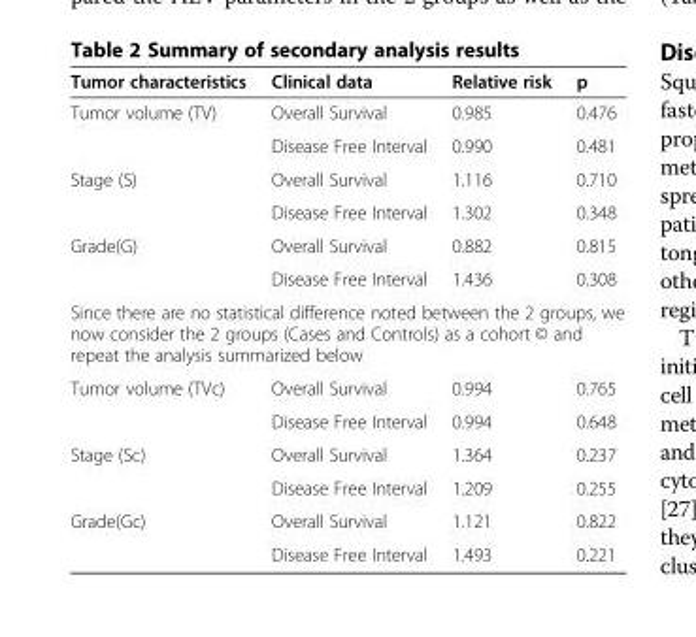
<table><thead><tr><td>Tumor characteristics</td><td>Clinical data</td><td>Relative risk</td><td>p</td></tr></thead><tbody><tr><td rowspan="2">Tumor volume (TV)</td><td>Overall Survival</td><td>0.985</td><td>0.476</td></tr><tr><td>Disease Free Interval</td><td>0.990</td><td>0.481</td></tr><tr><td rowspan="2">Stage (S)</td><td>Overall Survival</td><td>1.116</td><td>0.710</td></tr><tr><td>Disease Free Interval</td><td>1.302</td><td>0.348</td></tr><tr><td rowspan="2">Grade(G)</td><td>Overall Survival</td><td>0.882</td><td>0.815</td></tr><tr><td>Disease Free Interval</td><td>1.436</td><td>0.308</td></tr><tr><td colspan="4">Since there are no statistical difference noted between the 2 groups, we now consider the 2 groups (Cases and Controls) as a cohort © and repeat the analysis summarized below</td></tr><tr><td rowspan="2">Tumor volume (TVc)</td><td>Overall Survival</td><td>0.994</td><td>0.765</td></tr><tr><td>Disease Free Interval</td><td>0.994</td><td>0.648</td></tr><tr><td rowspan="2">Stage (Sc)</td><td>Overall Survival</td><td>1.364</td><td>0.237</td></tr><tr><td>Disease Free Interval</td><td>1.209</td><td>0.255</td></tr><tr><td rowspan="2">Grade(Gc)</td><td>Overall Survival</td><td>1.121</td><td>0.822</td></tr><tr><td>Disease Free Interval</td><td>1.493</td><td>0.221</td></tr></tbody></table>